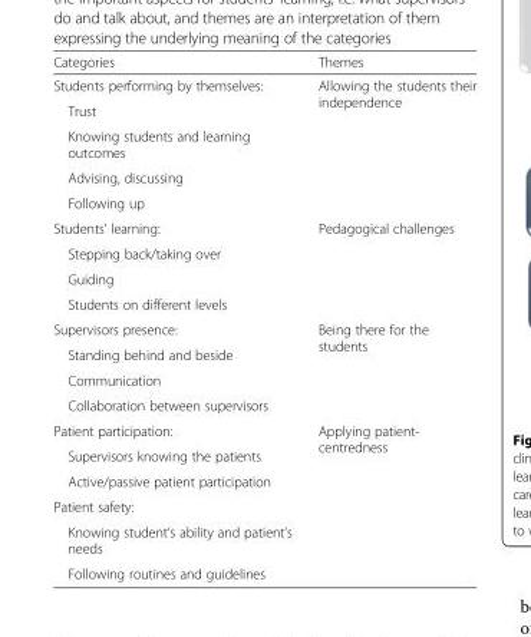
<table><thead><tr><td>Categories</td><td>Themes</td></tr></thead><tbody><tr><td>Students performing by themselves:</td><td rowspan="5">Allowing the students their independence</td></tr><tr><td>Trust</td></tr><tr><td>Knowing students and learning outcomes</td></tr><tr><td>Advising, discussing</td></tr><tr><td>Following up</td></tr><tr><td>Students’ learning:</td><td rowspan="4">Pedagogical challenges</td></tr><tr><td>Stepping back/taking over</td></tr><tr><td>Guiding</td></tr><tr><td>Students on different levels</td></tr><tr><td>Supervisors presence:</td><td rowspan="4">Being there for the students</td></tr><tr><td>Standing behind and beside</td></tr><tr><td>Communication</td></tr><tr><td>Collaboration between supervisors</td></tr><tr><td>Patient participation:</td><td rowspan="3">Applying patient- centredness</td></tr><tr><td>Supervisors knowing the patients</td></tr><tr><td>Active/passive patient participation</td></tr><tr><td>Patient safety:</td><td rowspan="3"></td></tr><tr><td>Knowing student’s ability and patient’s needs</td></tr><tr><td>Following routines and guidelines</td></tr></tbody></table>